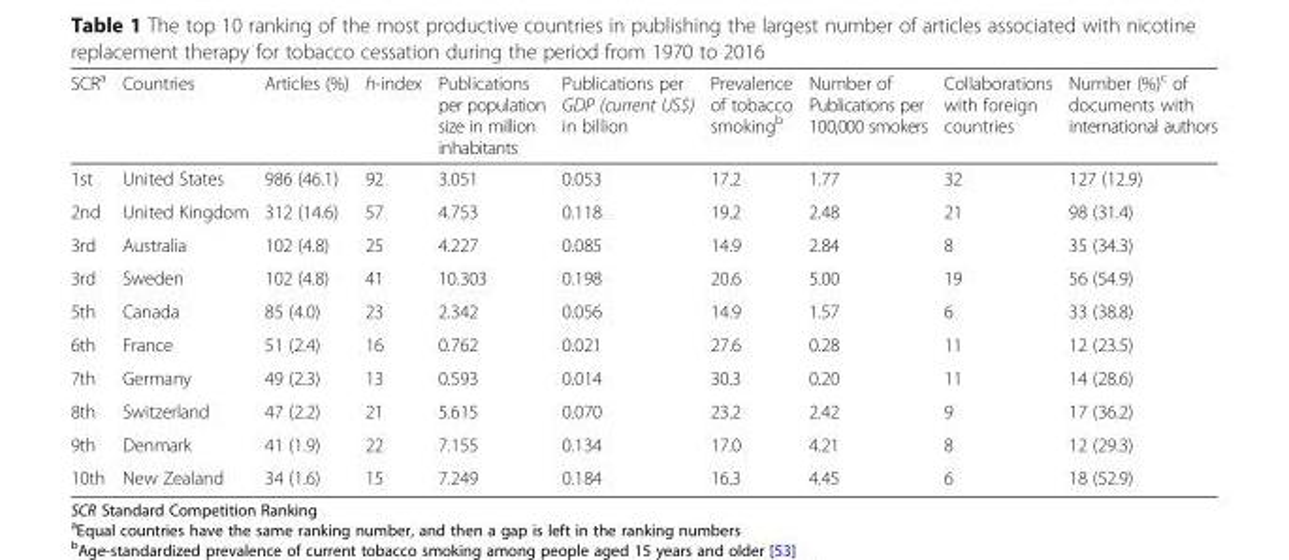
<table><thead><tr><td>SCR<sup>a</sup></td><td>Countries</td><td>Articles (%)</td><td>h-index</td><td>Publications per population size in million inhabitants</td><td>Publications per GDP (current US$) in billion</td><td>Prevalence of tobacco smoking<sup>b</sup></td><td>Number of Publications per 100,000 smokers</td><td>Collaborations with foreign countries</td><td>Number (%)<sup>c</sup> of documents with international authors</td></tr></thead><tbody><tr><td>1st</td><td>United States</td><td>986 (46.1)</td><td>92</td><td>3.051</td><td>0.053</td><td>17.2</td><td>1.77</td><td>32</td><td>127 (12.9)</td></tr><tr><td>2nd</td><td>United Kingdom</td><td>312 (14.6)</td><td>57</td><td>4.753</td><td>0.118</td><td>19.2</td><td>2.48</td><td>21</td><td>98 (31.4)</td></tr><tr><td>3rd</td><td>Australia</td><td>102 (4.8)</td><td>25</td><td>4.227</td><td>0.085</td><td>14.9</td><td>2.84</td><td>8</td><td>35 (34.3)</td></tr><tr><td>3rd</td><td>Sweden</td><td>102 (4.8)</td><td>41</td><td>10.303</td><td>0.198</td><td>20.6</td><td>5.00</td><td>19</td><td>56 (54.9)</td></tr><tr><td>5th</td><td>Canada</td><td>85 (4.0)</td><td>23</td><td>2.342</td><td>0.056</td><td>14.9</td><td>1.57</td><td>6</td><td>33 (38.8)</td></tr><tr><td>6th</td><td>France</td><td>51 (2.4)</td><td>16</td><td>0.762</td><td>0.021</td><td>27.6</td><td>0.28</td><td>11</td><td>12 (23.5)</td></tr><tr><td>7th</td><td>Germany</td><td>49 (2.3)</td><td>13</td><td>0.593</td><td>0.014</td><td>30.3</td><td>0.20</td><td>11</td><td>14 (28.6)</td></tr><tr><td>8th</td><td>Switzerland</td><td>47 (2.2)</td><td>21</td><td>5.615</td><td>0.070</td><td>23.2</td><td>2.42</td><td>9</td><td>17 (36.2)</td></tr><tr><td>9th</td><td>Denmark</td><td>41 (1.9)</td><td>22</td><td>7.155</td><td>0.134</td><td>17.0</td><td>4.21</td><td>8</td><td>12 (29.3)</td></tr><tr><td>10th</td><td>New Zealand</td><td>34 (1.6)</td><td>15</td><td>7.249</td><td>0.184</td><td>16.3</td><td>4.45</td><td>6</td><td>18 (52.9)</td></tr></tbody></table>